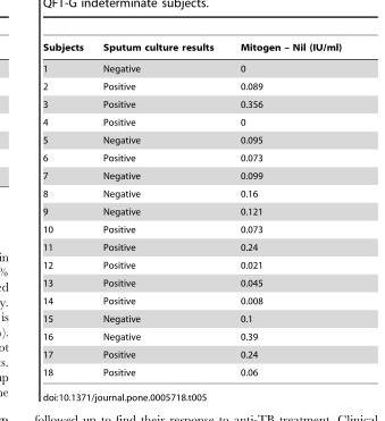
<table><thead><tr><td>Subjects</td><td>Sputum culture results</td><td>Mitogen – Nil (IU/ml)</td></tr></thead><tbody><tr><td>1</td><td>Negative</td><td>0</td></tr><tr><td>2</td><td>Positive</td><td>0.089</td></tr><tr><td>3</td><td>Positive</td><td>0.356</td></tr><tr><td>4</td><td>Positive</td><td>0</td></tr><tr><td>5</td><td>Negative</td><td>0.095</td></tr><tr><td>6</td><td>Positive</td><td>0.073</td></tr><tr><td>7</td><td>Negative</td><td>0.099</td></tr><tr><td>8</td><td>Negative</td><td>0.16</td></tr><tr><td>9</td><td>Negative</td><td>0.121</td></tr><tr><td>10</td><td>Positive</td><td>0.073</td></tr><tr><td>11</td><td>Positive</td><td>0.24</td></tr><tr><td>12</td><td>Positive</td><td>0.021</td></tr><tr><td>13</td><td>Positive</td><td>0.045</td></tr><tr><td>14</td><td>Positive</td><td>0.008</td></tr><tr><td>15</td><td>Negative</td><td>0.1</td></tr><tr><td>16</td><td>Negative</td><td>0.39</td></tr><tr><td>17</td><td>Positive</td><td>0.24</td></tr><tr><td>18</td><td>Positive</td><td>0.06</td></tr></tbody></table>